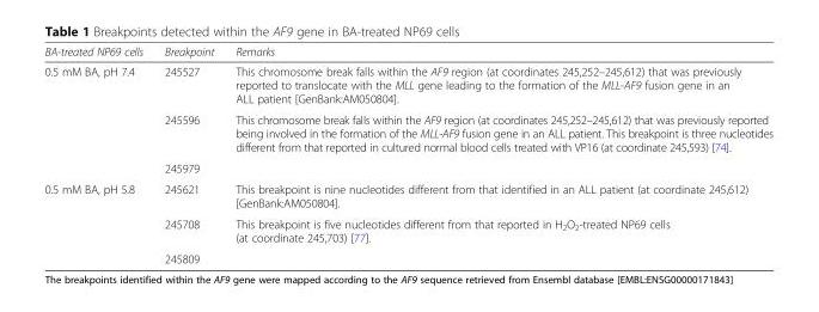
<table><thead><tr><td>BA-treated NP69 cells</td><td>Breakpoint</td><td>Remarks</td></tr></thead><tbody><tr><td rowspan="3">0.5 mM BA, pH 7.4</td><td>245527</td><td>This chromosome break falls within the AF9 region (at coordinates 245,252–245,612) that was previously reported to translocate with the MLL gene leading to the formation of the MLL-AF9 fusion gene in an ALL patient [GenBank:AM050804].</td></tr><tr><td>245596</td><td>This chromosome break falls within the AF9 region (at coordinates 245,252–245,612) that was previously reported being involved in the formation of the MLL-AF9 fusion gene in an ALL patient. This breakpoint is three nucleotides different from that reported in cultured normal blood cells treated with VP16 (at coordinate 245,593) [74].</td></tr><tr><td>245979</td><td></td></tr><tr><td rowspan="3">0.5 mM BA, pH 5.8</td><td>245621</td><td>This breakpoint is nine nucleotides different from that identified in an ALL patient (at coordinate 245,612) [GenBank:AM050804].</td></tr><tr><td>245708</td><td>This breakpoint is five nucleotides different from that reported in H<sub>2</sub>O<sub>2</sub>-treated NP69 cells (at coordinate 245,703) [77].</td></tr><tr><td>245809</td><td></td></tr></tbody></table>